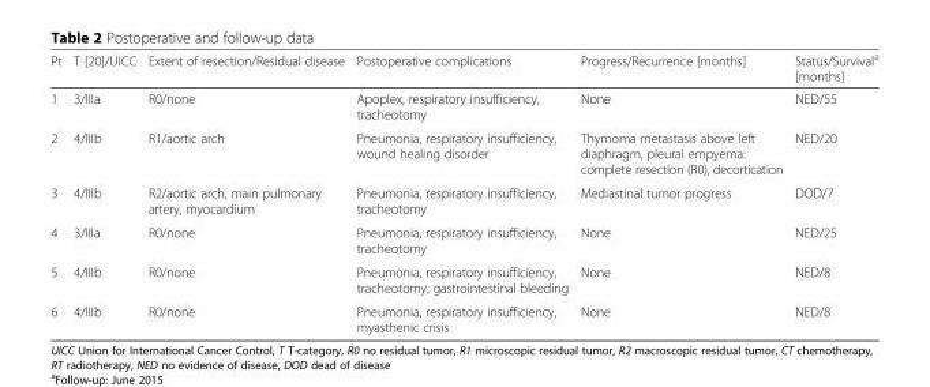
<table><thead><tr><td>Pt</td><td>T [20]/UICC</td><td>Extent of resection/Residual disease</td><td>Postoperative complications</td><td>Progress/Recurrence [months]</td><td>Status/Survival<sup>a</sup> [months]</td></tr></thead><tbody><tr><td>1</td><td>3/IIIa</td><td>R0/none</td><td>Apoplex, respiratory insufficiency, tracheotomy</td><td>None</td><td>NED/55</td></tr><tr><td>2</td><td>4/IIIb</td><td>R1/aortic arch</td><td>Pneumonia, respiratory insufficiency, wound healing disorder</td><td>Thymoma metastasis above left diaphragm, pleural empyema: complete resection (R0), decortication</td><td>NED/20</td></tr><tr><td>3</td><td>4/IIIb</td><td>R2/aortic arch, main pulmonary artery, myocardium</td><td>Pneumonia, respiratory insufficiency, tracheotomy</td><td>Mediastinal tumor progress</td><td>DOD/7</td></tr><tr><td>4</td><td>3/IIIa</td><td>R0/none</td><td>Pneumonia, respiratory insufficiency, tracheotomy</td><td>None</td><td>NED/25</td></tr><tr><td>5</td><td>4/IIIb</td><td>R0/none</td><td>Pneumonia, respiratory insufficiency, tracheotomy, gastrointestinal bleeding</td><td>None</td><td>NED/8</td></tr><tr><td>6</td><td>4/IIIb</td><td>R0/none</td><td>Pneumonia, respiratory insufficiency, myasthenic crisis</td><td>None</td><td>NED/8</td></tr></tbody></table>